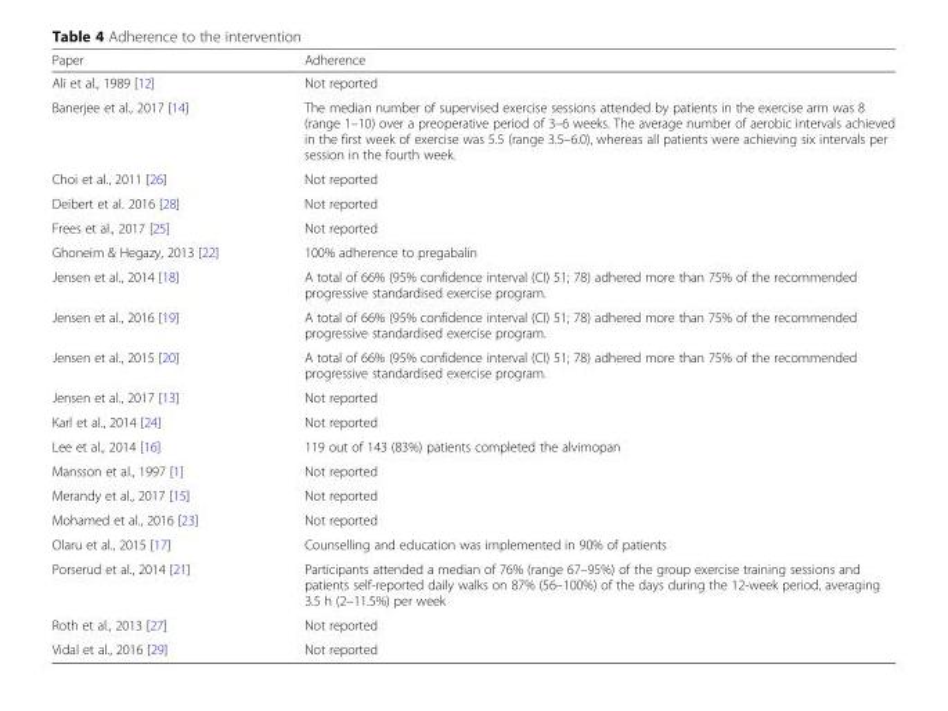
<table><thead><tr><td>Paper</td><td>Adherence</td></tr></thead><tbody><tr><td>Ali et al., 1989 [12]</td><td>Not reported</td></tr><tr><td>Banerjee et al., 2017 [14]</td><td>The median number of supervised exercise sessions attended by patients in the exercise arm was 8 (range 1–10) over a preoperative period of 3–6 weeks. The average number of aerobic intervals achieved in the first week of exercise was 5.5 (range 3.5–6.0), whereas all patients were achieving six intervals per session in the fourth week.</td></tr><tr><td>Choi et al., 2011 [26]</td><td>Not reported</td></tr><tr><td>Deibert et al. 2016 [28]</td><td>Not reported</td></tr><tr><td>Frees et al., 2017 [25]</td><td>Not reported</td></tr><tr><td>Ghoneim &amp; Hegazy, 2013 [22]</td><td>100% adherence to pregabalin</td></tr><tr><td>Jensen et al., 2014 [18]</td><td>A total of 66% (95% confidence interval (CI) 51; 78) adhered more than 75% of the recommended progressive standardised exercise program.</td></tr><tr><td>Jensen et al., 2016 [19]</td><td>A total of 66% (95% confidence interval (CI) 51; 78) adhered more than 75% of the recommended progressive standardised exercise program.</td></tr><tr><td>Jensen et al., 2015 [20]</td><td>A total of 66% (95% confidence interval (CI) 51; 78) adhered more than 75% of the recommended progressive standardised exercise program.</td></tr><tr><td>Jensen et al., 2017 [13]</td><td>Not reported</td></tr><tr><td>Karl et al., 2014 [24]</td><td>Not reported</td></tr><tr><td>Lee et al., 2014 [16]</td><td>119 out of 143 (83%) patients completed the alvimopan</td></tr><tr><td>Mansson et al., 1997 [1]</td><td>Not reported</td></tr><tr><td>Merandy et al., 2017 [15]</td><td>Not reported</td></tr><tr><td>Mohamed et al., 2016 [23]</td><td>Not reported</td></tr><tr><td>Olaru et al., 2015 [17]</td><td>Counselling and education was implemented in 90% of patients</td></tr><tr><td>Porserud et al., 2014 [21]</td><td>Participants attended a median of 76% (range 67–95%) of the group exercise training sessions and patients self-reported daily walks on 87% (56–100%) of the days during the 12-week period, averaging 3.5 h (2–11.5%) per week</td></tr><tr><td>Roth et al., 2013 [27]</td><td>Not reported</td></tr><tr><td>Vidal et al., 2016 [29]</td><td>Not reported</td></tr></tbody></table>